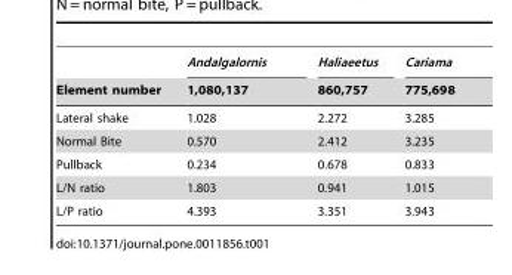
<table><thead><tr><td rowspan="2">Element number</td><td rowspan="2">Andalgalornis 1,080,137</td><td rowspan="2">Haliaeetus 860,757</td><td rowspan="2">Cariama 775,698</td></tr><tr></tr></thead><tbody><tr><td>Lateral shake</td><td>1.028</td><td>2.272</td><td>3.285</td></tr><tr><td>Normal Bite</td><td>0.570</td><td>2.412</td><td>3.235</td></tr><tr><td>Pullback</td><td>0.234</td><td>0.678</td><td>0.833</td></tr><tr><td>L/N ratio</td><td>1.803</td><td>0.941</td><td>1.015</td></tr><tr><td>L/P ratio</td><td>4.393</td><td>3.351</td><td>3.943</td></tr></tbody></table>